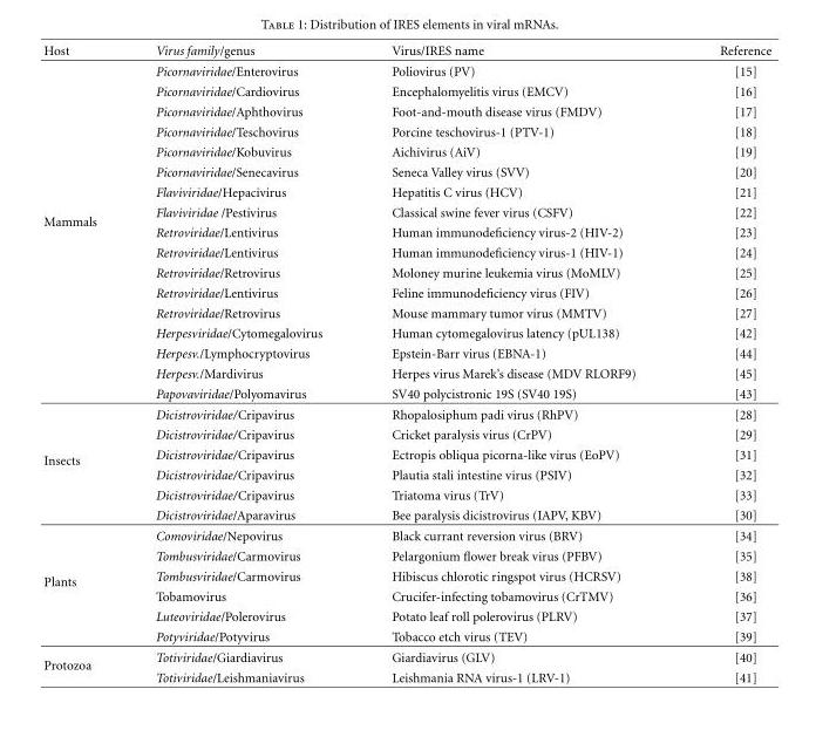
<table><thead><tr><td>Host</td><td>Virus family/genus</td><td>Virus/IRES name</td><td>Reference</td></tr></thead><tbody><tr><td rowspan="17">Mammals</td><td>Picornaviridae/Enterovirus</td><td>Poliovirus (PV)</td><td>[15]</td></tr><tr><td>Picornaviridae/Cardiovirus</td><td>Encephalomyelitis virus (EMCV)</td><td>[16]</td></tr><tr><td>Picornaviridae/Aphthovirus</td><td>Foot-and-mouth disease virus (FMDV)</td><td>[17]</td></tr><tr><td>Picornaviridae/Teschovirus</td><td>Porcine teschovirus-1 (PTV-1)</td><td>[18]</td></tr><tr><td>Picornaviridae/Kobuvirus</td><td>Aichivirus (AiV)</td><td>[19]</td></tr><tr><td>Picornaviridae/Senecavirus</td><td>Seneca Valley virus (SVV)</td><td>[20]</td></tr><tr><td>Flaviviridae/Hepacivirus</td><td>Hepatitis C virus (HCV)</td><td>[21]</td></tr><tr><td>Flaviviridae /Pestivirus</td><td>Classical swine fever virus (CSFV)</td><td>[22]</td></tr><tr><td>Retroviridae/Lentivirus</td><td>Human immunodeficiency virus-2 (HIV-2)</td><td>[23]</td></tr><tr><td>Retroviridae/Lentivirus</td><td>Human immunodeficiency virus-1 (HIV-1)</td><td>[24]</td></tr><tr><td>Retroviridae/Retrovirus</td><td>Moloney murine leukemia virus (MoMLV)</td><td>[25]</td></tr><tr><td>Retroviridae/Lentivirus</td><td>Feline immunodeficiency virus (FIV)</td><td>[26]</td></tr><tr><td>Retroviridae/Retrovirus</td><td>Mouse mammary tumor virus (MMTV)</td><td>[27]</td></tr><tr><td>Herpesviridae/Cytomegalovirus</td><td>Human cytomegalovirus latency (pUL138)</td><td>[42]</td></tr><tr><td>Herpesv./Lymphocryptovirus</td><td>Epstein-Barr virus (EBNA-1)</td><td>[44]</td></tr><tr><td>Herpesv./Mardivirus</td><td>Herpes virus Marek’s disease (MDV RLORF9)</td><td>[45]</td></tr><tr><td>Papovaviridae/Polyomavirus</td><td>SV40 polycistronic 19S (SV40 19S)</td><td>[43]</td></tr><tr><td rowspan="6">Insects</td><td>Dicistroviridae/Cripavirus</td><td>Rhopalosiphum padi virus (RhPV)</td><td>[28]</td></tr><tr><td>Dicistroviridae/Cripavirus</td><td>Cricket paralysis virus (CrPV)</td><td>[29]</td></tr><tr><td>Dicistroviridae/Cripavirus</td><td>Ectropis obliqua picorna-like virus (EoPV)</td><td>[31]</td></tr><tr><td>Dicistroviridae/Cripavirus</td><td>Plautia stali intestine virus (PSIV)</td><td>[32]</td></tr><tr><td>Dicistroviridae/Cripavirus</td><td>Triatoma virus (TrV)</td><td>[33]</td></tr><tr><td>Dicistroviridae/Aparavirus</td><td>Bee paralysis dicistrovirus (IAPV, KBV)</td><td>[30]</td></tr><tr><td rowspan="6">Plants</td><td>Comoviridae/Nepovirus</td><td>Black currant reversion virus (BRV)</td><td>[34]</td></tr><tr><td>Tombusviridae/Carmovirus</td><td>Pelargonium flower break virus (PFBV)</td><td>[35]</td></tr><tr><td>Tombusviridae/Carmovirus</td><td>Hibiscus chlorotic ringspot virus (HCRSV)</td><td>[38]</td></tr><tr><td>Tobamovirus</td><td>Crucifer-infecting tobamovirus (CrTMV)</td><td>[36]</td></tr><tr><td>Luteoviridae/Polerovirus</td><td>Potato leaf roll polerovirus (PLRV)</td><td>[37]</td></tr><tr><td>Potyviridae/Potyvirus</td><td>Tobacco etch virus (TEV)</td><td>[39]</td></tr><tr><td rowspan="2">Protozoa</td><td>Totiviridae/Giardiavirus</td><td>Giardiavirus (GLV)</td><td>[40]</td></tr><tr><td>Totiviridae/Leishmaniavirus</td><td>Leishmania RNA virus-1 (LRV-1)</td><td>[41]</td></tr></tbody></table>